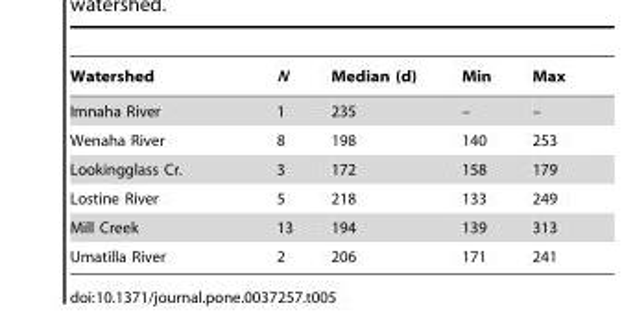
<table><thead><tr><td>Watershed</td><td>N</td><td>Median (d)</td><td>Min</td><td>Max</td></tr></thead><tbody><tr><td>Imnaha River</td><td>1</td><td>235</td><td>–</td><td>–</td></tr><tr><td>Wenaha River</td><td>8</td><td>198</td><td>140</td><td>253</td></tr><tr><td>Lookingglass Cr.</td><td>3</td><td>172</td><td>158</td><td>179</td></tr><tr><td>Lostine River</td><td>5</td><td>218</td><td>133</td><td>249</td></tr><tr><td>Mill Creek</td><td>13</td><td>194</td><td>139</td><td>313</td></tr><tr><td>Umatilla River</td><td>2</td><td>206</td><td>171</td><td>241</td></tr></tbody></table>